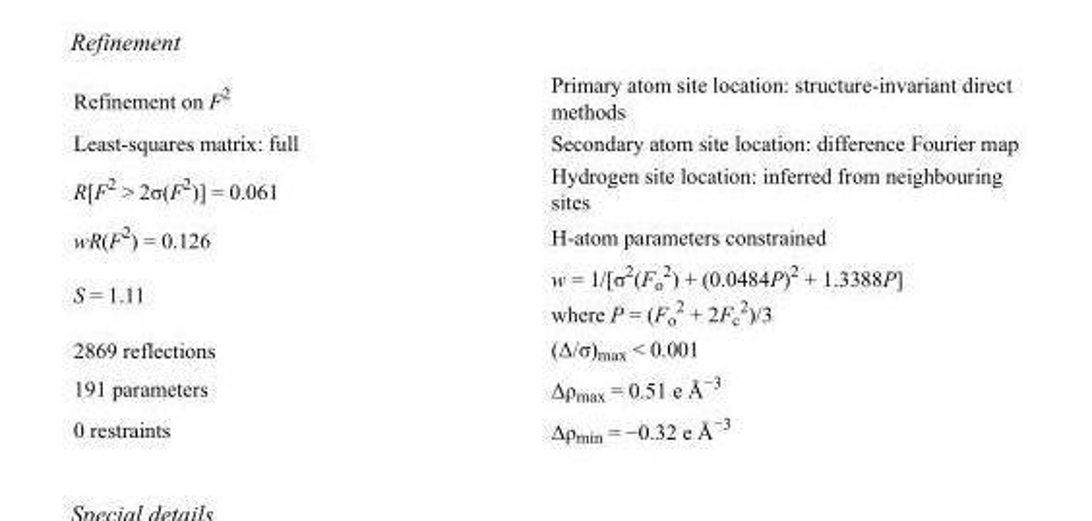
<table><tbody><tr><td>Refinement on F<sup>2</sup></td><td>Primary atom site location: structure-invariant direct methods</td></tr><tr><td>Least-squares matrix: full</td><td>Secondary atom site location: difference Fourier map</td></tr><tr><td>R[F<sup>2</sup> &gt; 2σ(F<sup>2</sup>)] = 0.061</td><td>Hydrogen site location: inferred from neighbouring sites</td></tr><tr><td>wR(F<sup>2</sup>) = 0.126</td><td>H-atom parameters constrained</td></tr><tr><td>S = 1.11</td><td>w = 1/[σ<sup>2</sup>(F<sub>o</sub> <sup>2</sup>) + (0.0484P)<sup>2</sup> + 1.3388P] where P = (F<sub>o</sub> <sup>2</sup> + 2F<sub>c</sub> <sup>2</sup>)/3</td></tr><tr><td>2869 reflections</td><td>(Δ/σ)<sub>max</sub> &lt; 0.001</td></tr><tr><td>191 parameters</td><td>Δρ<sub>max</sub> = 0.51 e Å<sup>−3</sup></td></tr><tr><td>0 restraints</td><td>Δρ<sub>min</sub> = −0.32 e Å<sup>−3</sup></td></tr></tbody></table>